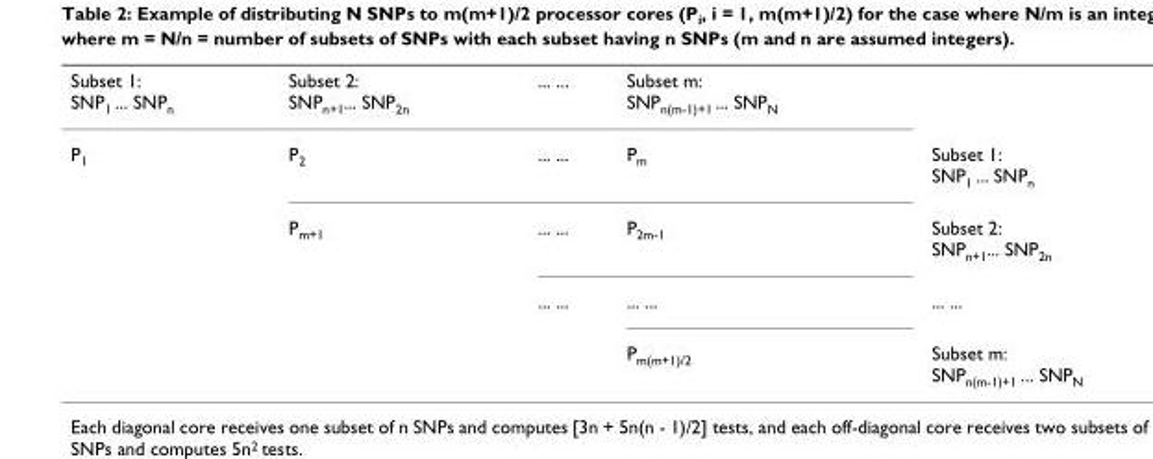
<table><tbody><tr><td>Subset 1: SNP<sub>1</sub> ... SNP<sub>n</sub></td><td>Subset 2: SNP<sub>n+1</sub>... SNP<sub>2n</sub></td><td>... ...</td><td>Subset m: SNP<sub>n(m-1)+1</sub> ... SNP<sub>N</sub></td><td></td></tr><tr><td rowspan="4">P<sub>1</sub></td><td>P<sub>2</sub></td><td>... ...</td><td>P<sub>m</sub></td><td>Subset 1: SNP<sub>1</sub> ... SNP<sub>n</sub></td></tr><tr><td>P<sub>m+1</sub></td><td>... ...</td><td>P<sub>2m-1</sub></td><td>Subset 2: SNP<sub>n+1</sub>... SNP<sub>2n</sub></td></tr><tr><td></td><td>... ...</td><td>... ...</td><td>... ...</td></tr><tr><td></td><td></td><td>P<sub>m(m+1)/2</sub></td><td>Subset m: SNP<sub>n(m-1)+1</sub> ... SNP<sub>N</sub></td></tr></tbody></table>